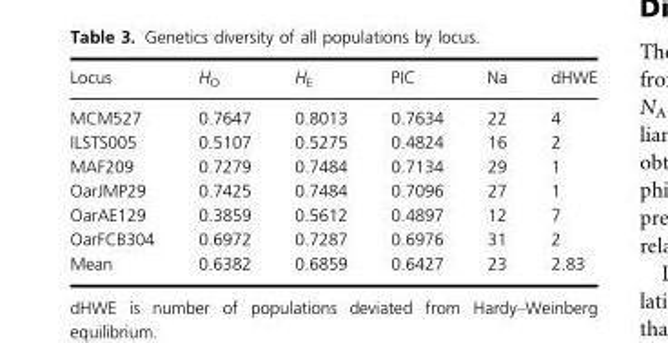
<table><thead><tr><td>Locus</td><td>H<sub>O</sub></td><td>H<sub>E</sub></td><td>PIC</td><td>Na</td><td>dHWE</td></tr></thead><tbody><tr><td>MCM527</td><td>0.7647</td><td>0.8013</td><td>0.7634</td><td>22</td><td>4</td></tr><tr><td>ILSTS005</td><td>0.5107</td><td>0.5275</td><td>0.4824</td><td>16</td><td>2</td></tr><tr><td>MAF209</td><td>0.7279</td><td>0.7484</td><td>0.7134</td><td>29</td><td>1</td></tr><tr><td>OarJMP29</td><td>0.7425</td><td>0.7484</td><td>0.7096</td><td>27</td><td>1</td></tr><tr><td>OarAE129</td><td>0.3859</td><td>0.5612</td><td>0.4897</td><td>12</td><td>7</td></tr><tr><td>OarFCB304</td><td>0.6972</td><td>0.7287</td><td>0.6976</td><td>31</td><td>2</td></tr><tr><td>Mean</td><td>0.6382</td><td>0.6859</td><td>0.6427</td><td>23</td><td>2.83</td></tr></tbody></table>